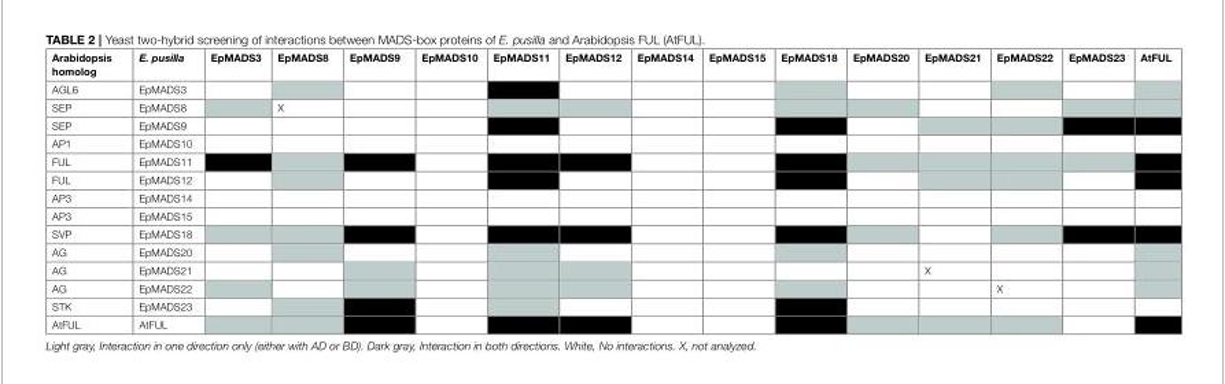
<table><thead><tr><td>Arabidopsis homolog</td><td>E. pusilla</td><td>EpMADS3</td><td>EpMADS8</td><td>EpMADS9</td><td>EpMADS10</td><td>EpMADS11</td><td>EpMADS12</td><td>EpMADS14</td><td>EpMADS15</td><td>EpMADS18</td><td>EpMADS20</td><td>EpMADS21</td><td>EpMADS22</td><td>EpMADS23</td><td>AtFUL</td></tr></thead><tbody><tr><td>AGL6</td><td>EpMADS3</td><td></td><td></td><td></td><td></td><td></td><td></td><td></td><td></td><td></td><td></td><td></td><td></td><td></td><td></td></tr><tr><td>SEP</td><td>EpMADS8</td><td></td><td>X</td><td></td><td></td><td></td><td></td><td></td><td></td><td></td><td></td><td></td><td></td><td></td><td></td></tr><tr><td>SEP</td><td>EpMADS9</td><td></td><td></td><td></td><td></td><td></td><td></td><td></td><td></td><td></td><td></td><td></td><td></td><td></td><td></td></tr><tr><td>AP1</td><td>EpMADS10</td><td></td><td></td><td></td><td></td><td></td><td></td><td></td><td></td><td></td><td></td><td></td><td></td><td></td><td></td></tr><tr><td>FUL</td><td>EpMADS11</td><td></td><td></td><td></td><td></td><td></td><td></td><td></td><td></td><td></td><td></td><td></td><td></td><td></td><td></td></tr><tr><td>FUL</td><td>EpMADS12</td><td></td><td></td><td></td><td></td><td></td><td></td><td></td><td></td><td></td><td></td><td></td><td></td><td></td><td></td></tr><tr><td>AP3</td><td>EpMADS14</td><td></td><td></td><td></td><td></td><td></td><td></td><td></td><td></td><td></td><td></td><td></td><td></td><td></td><td></td></tr><tr><td>AP3</td><td>EpMADS15</td><td></td><td></td><td></td><td></td><td></td><td></td><td></td><td></td><td></td><td></td><td></td><td></td><td></td><td></td></tr><tr><td>SVP</td><td>EpMADS18</td><td></td><td></td><td></td><td></td><td></td><td></td><td></td><td></td><td></td><td></td><td></td><td></td><td></td><td></td></tr><tr><td>AG</td><td>EpMADS20</td><td></td><td></td><td></td><td></td><td></td><td></td><td></td><td></td><td></td><td></td><td></td><td></td><td></td><td></td></tr><tr><td>AG</td><td>EpMADS21</td><td></td><td></td><td></td><td></td><td></td><td></td><td></td><td></td><td></td><td></td><td>X</td><td></td><td></td><td></td></tr><tr><td>AG</td><td>EpMADS22</td><td></td><td></td><td></td><td></td><td></td><td></td><td></td><td></td><td></td><td></td><td></td><td>X</td><td></td><td></td></tr><tr><td>STK</td><td>EpMADS23</td><td></td><td></td><td></td><td></td><td></td><td></td><td></td><td></td><td></td><td></td><td></td><td></td><td></td><td></td></tr><tr><td>AtFUL</td><td>AtFUL</td><td></td><td></td><td></td><td></td><td></td><td></td><td></td><td></td><td></td><td></td><td></td><td></td><td></td><td></td></tr></tbody></table>